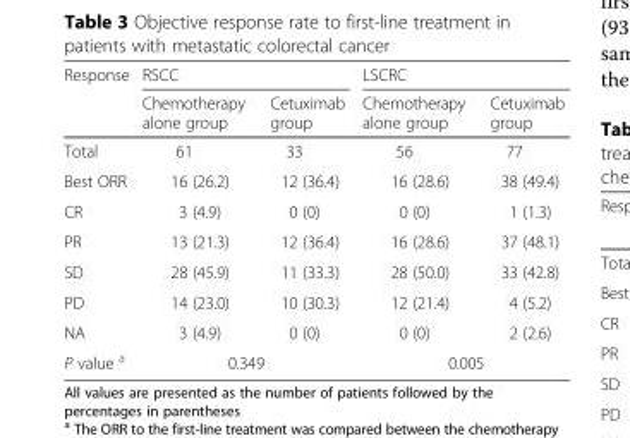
<table><thead><tr><td rowspan="2">Response</td><td colspan="2">RSCC</td><td colspan="2">LSCRC</td></tr><tr><td>Chemotherapy alone group</td><td>Cetuximab group</td><td>Chemotherapy alone group</td><td>Cetuximab group</td></tr></thead><tbody><tr><td>Total</td><td>61</td><td>33</td><td>56</td><td>77</td></tr><tr><td>Best ORR</td><td>16 (26.2)</td><td>12 (36.4)</td><td>16 (28.6)</td><td>38 (49.4)</td></tr><tr><td>CR</td><td>3 (4.9)</td><td>0 (0)</td><td>0 (0)</td><td>1 (1.3)</td></tr><tr><td>PR</td><td>13 (21.3)</td><td>12 (36.4)</td><td>16 (28.6)</td><td>37 (48.1)</td></tr><tr><td>SD</td><td>28 (45.9)</td><td>11 (33.3)</td><td>28 (50.0)</td><td>33 (42.8)</td></tr><tr><td>PD</td><td>14 (23.0)</td><td>10 (30.3)</td><td>12 (21.4)</td><td>4 (5.2)</td></tr><tr><td>NA</td><td>3 (4.9)</td><td>0 (0)</td><td>0 (0)</td><td>2 (2.6)</td></tr><tr><td>P value <sup>a</sup></td><td colspan="2">0.349</td><td colspan="2">0.005</td></tr></tbody></table>